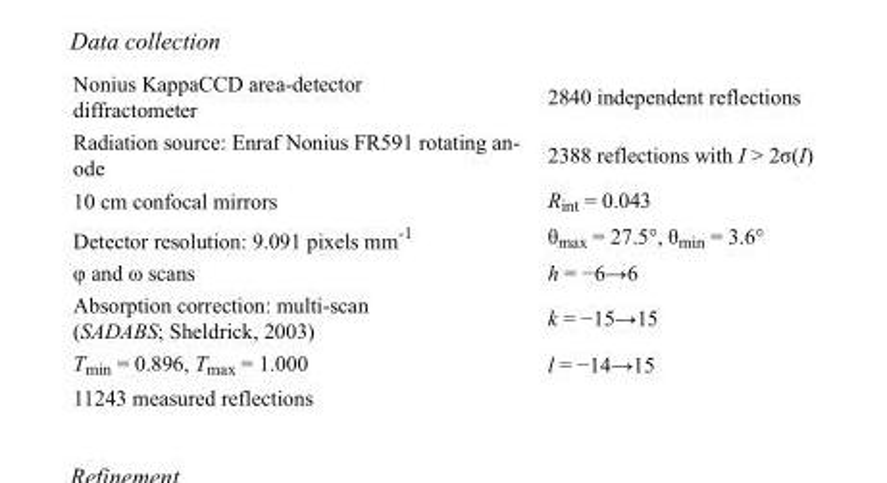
<table><tbody><tr><td>Nonius KappaCCD area-detector diffractometer</td><td>2840 independent reflections</td></tr><tr><td>Radiation source: Enraf Nonius FR591 rotating an- ode</td><td>2388 reflections with I &gt; 2σ(I)</td></tr><tr><td>10 cm confocal mirrors</td><td>R<sub>int</sub> = 0.043</td></tr><tr><td>Detector resolution: 9.091 pixels mm<sup>-1</sup></td><td>θ<sub>max</sub> = 27.5°, θ<sub>min</sub> = 3.6°</td></tr><tr><td>φ and ω scans</td><td>h = −6→6</td></tr><tr><td>Absorption correction: multi-scan (SADABS; Sheldrick, 2003)</td><td>k = −15→15</td></tr><tr><td>T<sub>min</sub> = 0.896, T<sub>max</sub> = 1.000</td><td>l = −14→15</td></tr><tr><td>11243 measured reflections</td><td></td></tr></tbody></table>